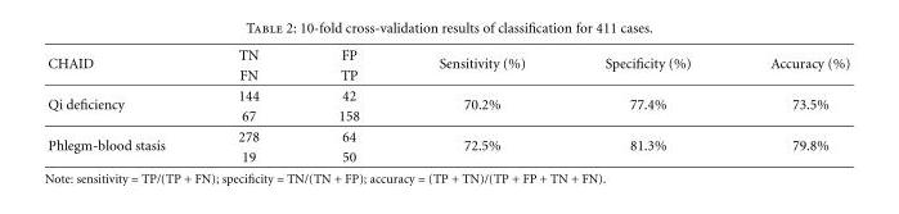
<table><thead><tr><td rowspan="2">CHAID</td><td rowspan="2">TN FN</td><td rowspan="2">FP TP</td><td rowspan="2">Sensitivity (%)</td><td rowspan="2">Specificity (%)</td><td rowspan="2">Accuracy (%)</td></tr><tr></tr></thead><tbody><tr><td rowspan="2">Qi deficiency</td><td>144</td><td>42</td><td rowspan="2">70.2%</td><td rowspan="2">77.4%</td><td rowspan="2">73.5%</td></tr><tr><td>67</td><td>158</td></tr><tr><td rowspan="2">Phlegm-blood stasis</td><td>278</td><td>64</td><td rowspan="2">72.5%</td><td rowspan="2">81.3%</td><td rowspan="2">79.8%</td></tr><tr><td>19</td><td>50</td></tr></tbody></table>